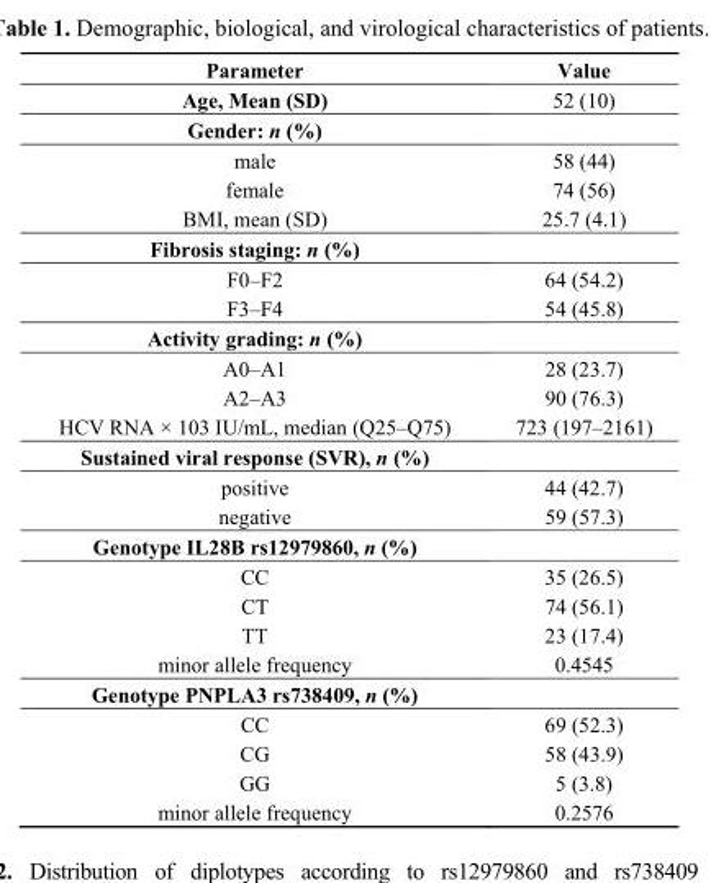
<table><thead><tr><td>Parameter</td><td>Value</td></tr></thead><tbody><tr><td>Age, Mean (SD)</td><td>52 (10)</td></tr><tr><td colspan="2">Gender: n (%)</td></tr><tr><td>male</td><td>58 (44)</td></tr><tr><td>female</td><td>74 (56)</td></tr><tr><td>BMI, mean (SD)</td><td>25.7 (4.1)</td></tr><tr><td colspan="2">Fibrosis staging: n (%)</td></tr><tr><td>F0–F2</td><td>64 (54.2)</td></tr><tr><td>F3–F4</td><td>54 (45.8)</td></tr><tr><td colspan="2">Activity grading: n (%)</td></tr><tr><td>A0–A1</td><td>28 (23.7)</td></tr><tr><td>A2–A3</td><td>90 (76.3)</td></tr><tr><td>HCV RNA × 103 IU/mL, median (Q25–Q75)</td><td>723 (197–2161)</td></tr><tr><td colspan="2">Sustained viral response (SVR), n (%)</td></tr><tr><td>positive</td><td>44 (42.7)</td></tr><tr><td>negative</td><td>59 (57.3)</td></tr><tr><td colspan="2">Genotype IL28B rs12979860, n (%)</td></tr><tr><td>CC</td><td>35 (26.5)</td></tr><tr><td>CT</td><td>74 (56.1)</td></tr><tr><td>TT</td><td>23 (17.4)</td></tr><tr><td>minor allele frequency</td><td>0.4545</td></tr><tr><td colspan="2">Genotype PNPLA3 rs738409, n (%)</td></tr><tr><td>CC</td><td>69 (52.3)</td></tr><tr><td>CG</td><td>58 (43.9)</td></tr><tr><td>GG</td><td>5 (3.8)</td></tr><tr><td>minor allele frequency</td><td>0.2576</td></tr></tbody></table>